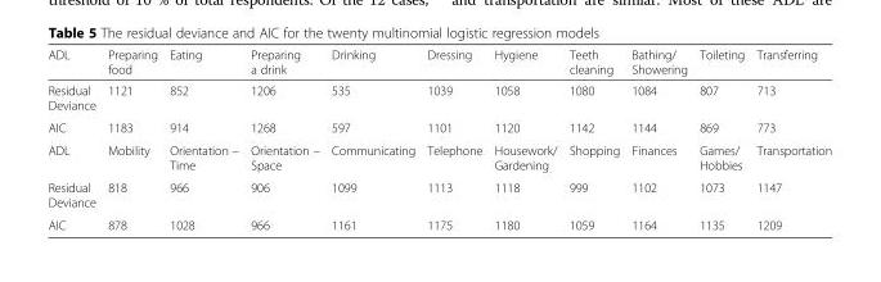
<table><thead><tr><td>ADL</td><td>Preparing food</td><td>Eating</td><td>Preparing a drink</td><td>Drinking</td><td>Dressing</td><td>Hygiene</td><td>Teeth cleaning</td><td>Bathing/ Showering</td><td>Toileting</td><td>Transferring</td></tr></thead><tbody><tr><td>Residual Deviance</td><td>1121</td><td>852</td><td>1206</td><td>535</td><td>1039</td><td>1058</td><td>1080</td><td>1084</td><td>807</td><td>713</td></tr><tr><td>AIC</td><td>1183</td><td>914</td><td>1268</td><td>597</td><td>1101</td><td>1120</td><td>1142</td><td>1144</td><td>869</td><td>773</td></tr><tr><td>ADL</td><td>Mobility</td><td>Orientation – Time</td><td>Orientation – Space</td><td>Communicating</td><td>Telephone</td><td>Housework/ Gardening</td><td>Shopping</td><td>Finances</td><td>Games/ Hobbies</td><td>Transportation</td></tr><tr><td>Residual Deviance</td><td>818</td><td>966</td><td>906</td><td>1099</td><td>1113</td><td>1118</td><td>999</td><td>1102</td><td>1073</td><td>1147</td></tr><tr><td>AIC</td><td>878</td><td>1028</td><td>966</td><td>1161</td><td>1175</td><td>1180</td><td>1059</td><td>1164</td><td>1135</td><td>1209</td></tr></tbody></table>